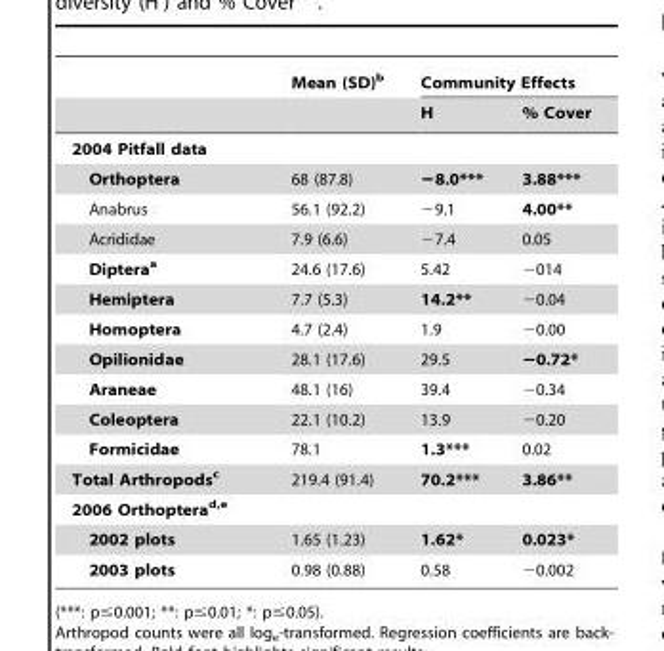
<table><thead><tr><td rowspan="2"></td><td rowspan="2">Mean (SD)<sup>b</sup></td><td colspan="2">Community Effects</td></tr><tr><td>H</td><td>% Cover</td></tr></thead><tbody><tr><td colspan="4">2004 Pitfall data</td></tr><tr><td>Orthoptera</td><td>68 (87.8)</td><td>−8.0***</td><td>3.88***</td></tr><tr><td>Anabrus</td><td>56.1 (92.2)</td><td>−9.1</td><td>4.00**</td></tr><tr><td>Acrididae</td><td>7.9 (6.6)</td><td>−7.4</td><td>0.05</td></tr><tr><td>Dipteraa</td><td>24.6 (17.6)</td><td>5.42</td><td>−014</td></tr><tr><td>Hemiptera</td><td>7.7 (5.3)</td><td>14.2**</td><td>−0.04</td></tr><tr><td>Homoptera</td><td>4.7 (2.4)</td><td>1.9</td><td>−0.00</td></tr><tr><td>Opilionidae</td><td>28.1 (17.6)</td><td>29.5</td><td>−0.72*</td></tr><tr><td>Araneae</td><td>48.1 (16)</td><td>39.4</td><td>−0.34</td></tr><tr><td>Coleoptera</td><td>22.1 (10.2)</td><td>13.9</td><td>−0.20</td></tr><tr><td>Formicidae</td><td>78.1</td><td>1.3***</td><td>0.02</td></tr><tr><td>Total Arthropodsc</td><td>219.4 (91.4)</td><td>70.2***</td><td>3.86**</td></tr><tr><td colspan="4">2006 Orthopterad,e</td></tr><tr><td>2002 plots</td><td>1.65 (1.23)</td><td>1.62*</td><td>0.023*</td></tr><tr><td>2003 plots</td><td>0.98 (0.88)</td><td>0.58</td><td>−0.002</td></tr></tbody></table>